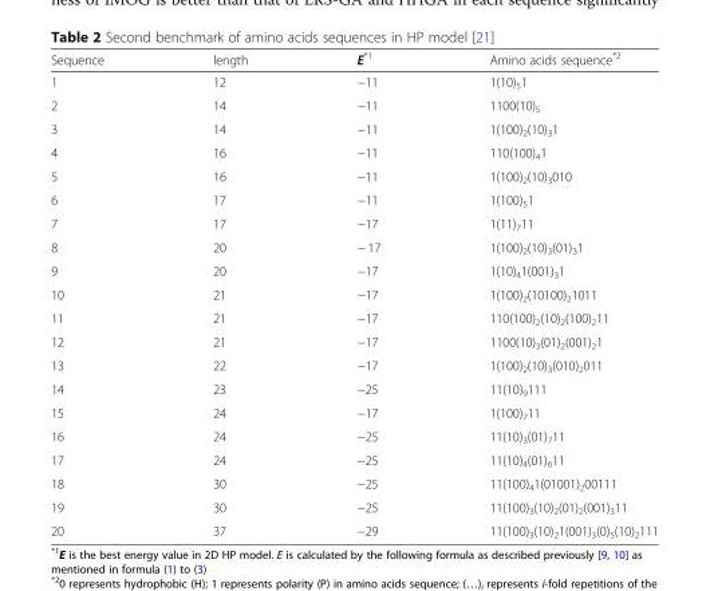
<table><thead><tr><td>Sequence</td><td>length</td><td>E<sup>*1</sup></td><td>Amino acids sequence<sup>*2</sup></td></tr></thead><tbody><tr><td>1</td><td>12</td><td>−11</td><td>1(10)<sub>5</sub>1</td></tr><tr><td>2</td><td>14</td><td>−11</td><td>1100(10)<sub>5</sub></td></tr><tr><td>3</td><td>14</td><td>−11</td><td>1(100)<sub>2</sub>(10)<sub>3</sub>1</td></tr><tr><td>4</td><td>16</td><td>−11</td><td>110(100)<sub>4</sub>1</td></tr><tr><td>5</td><td>16</td><td>−11</td><td>1(100)<sub>2</sub>(10)<sub>3</sub>010</td></tr><tr><td>6</td><td>17</td><td>−11</td><td>1(100)<sub>5</sub>1</td></tr><tr><td>7</td><td>17</td><td>−17</td><td>1(11)<sub>7</sub>11</td></tr><tr><td>8</td><td>20</td><td>− 17</td><td>1(100)<sub>2</sub>(10)<sub>3</sub>(01)<sub>3</sub>1</td></tr><tr><td>9</td><td>20</td><td>−17</td><td>1(10)<sub>4</sub>1(001)<sub>3</sub>1</td></tr><tr><td>10</td><td>21</td><td>−17</td><td>1(100)<sub>2</sub>(10100)<sub>2</sub>1011</td></tr><tr><td>11</td><td>21</td><td>−17</td><td>110(100)<sub>2</sub>(10)<sub>2</sub>(100)<sub>2</sub>11</td></tr><tr><td>12</td><td>21</td><td>−17</td><td>1100(10)<sub>3</sub>(01)<sub>2</sub>(001)<sub>2</sub>1</td></tr><tr><td>13</td><td>22</td><td>−17</td><td>1(100)<sub>2</sub>(10)<sub>3</sub>(010)<sub>2</sub>011</td></tr><tr><td>14</td><td>23</td><td>−25</td><td>11(10)<sub>9</sub>111</td></tr><tr><td>15</td><td>24</td><td>−17</td><td>1(100)<sub>7</sub>11</td></tr><tr><td>16</td><td>24</td><td>−25</td><td>11(10)<sub>3</sub>(01)<sub>7</sub>11</td></tr><tr><td>17</td><td>24</td><td>−25</td><td>11(10)<sub>4</sub>(01)<sub>6</sub>11</td></tr><tr><td>18</td><td>30</td><td>−25</td><td>11(100)<sub>4</sub>1(01001)<sub>2</sub>00111</td></tr><tr><td>19</td><td>30</td><td>−25</td><td>11(100)<sub>3</sub>(10)<sub>2</sub>(01)<sub>2</sub>(001)<sub>3</sub>11</td></tr><tr><td>20</td><td>37</td><td>−29</td><td>11(100)<sub>3</sub>(10)<sub>2</sub>1(001)<sub>3</sub>(0)<sub>5</sub>(10)<sub>2</sub>111</td></tr></tbody></table>